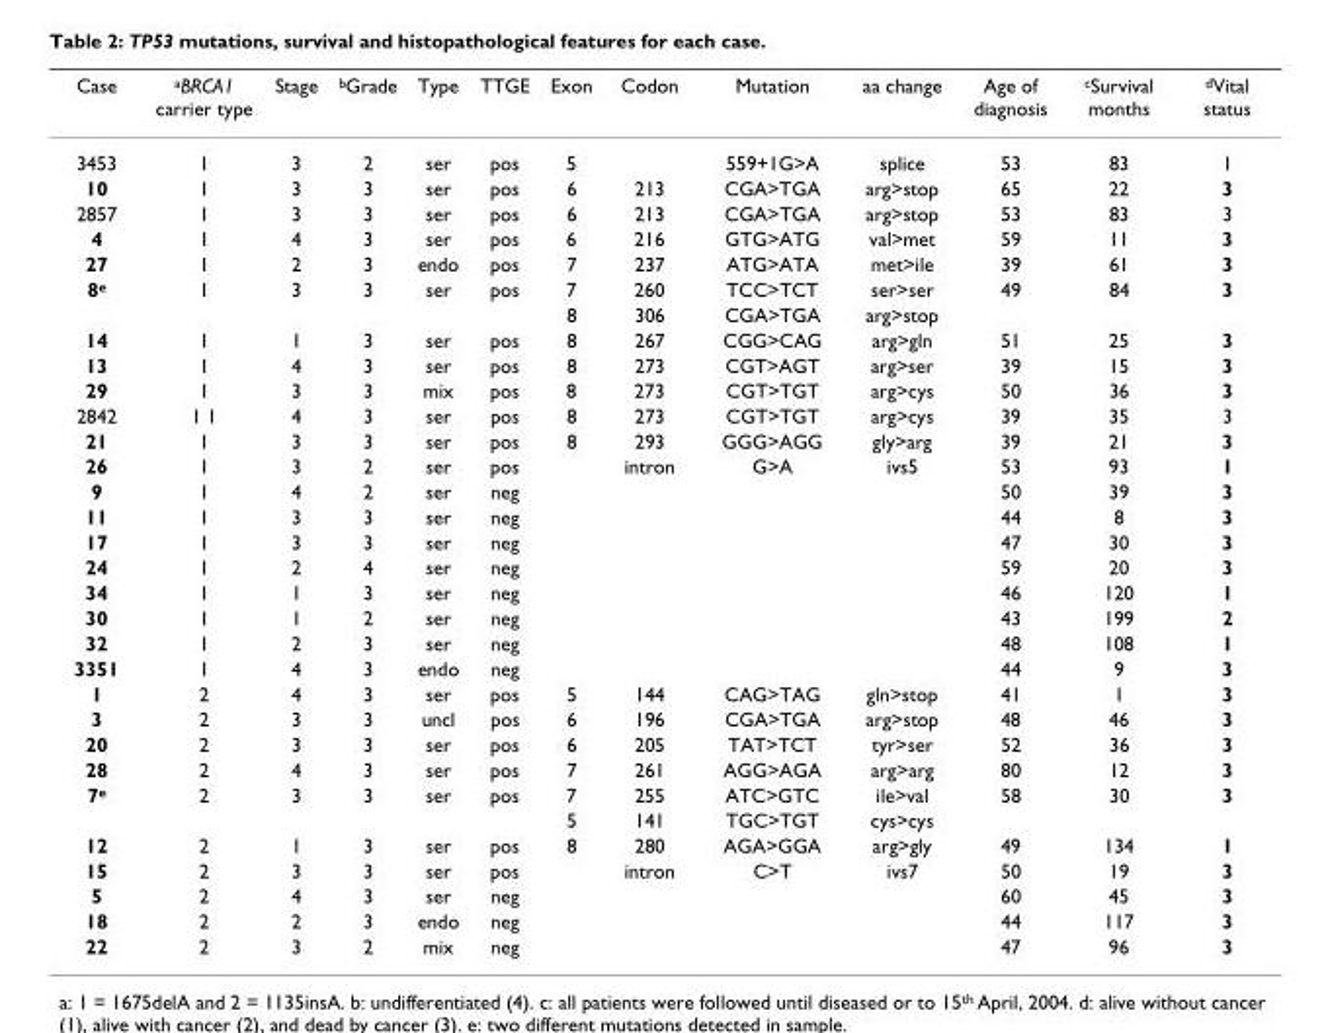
<table><thead><tr><td>Case</td><td>aBRCA1 carrier type</td><td>Stage</td><td>bGrade</td><td>Type</td><td>TTGE</td><td>Exon</td><td>Codon</td><td>Mutation</td><td>aa change</td><td>Age of diagnosis</td><td>cSurvival months</td><td>dVital status</td></tr></thead><tbody><tr><td>3453</td><td>1</td><td>3</td><td>2</td><td>ser</td><td>pos</td><td>5</td><td></td><td>559+1G&gt;A</td><td>splice</td><td>53</td><td>83</td><td>1</td></tr><tr><td>10</td><td>1</td><td>3</td><td>3</td><td>ser</td><td>pos</td><td>6</td><td>213</td><td>CGA&gt;TGA</td><td>arg&gt;stop</td><td>65</td><td>22</td><td>3</td></tr><tr><td>2857</td><td>1</td><td>3</td><td>3</td><td>ser</td><td>pos</td><td>6</td><td>213</td><td>CGA&gt;TGA</td><td>arg&gt;stop</td><td>53</td><td>83</td><td>3</td></tr><tr><td>4</td><td>1</td><td>4</td><td>3</td><td>ser</td><td>pos</td><td>6</td><td>216</td><td>GTG&gt;ATG</td><td>val&gt;met</td><td>59</td><td>11</td><td>3</td></tr><tr><td>27</td><td>1</td><td>2</td><td>3</td><td>endo</td><td>pos</td><td>7</td><td>237</td><td>ATG&gt;ATA</td><td>met&gt;ile</td><td>39</td><td>61</td><td>3</td></tr><tr><td rowspan="2">8e</td><td>1</td><td>3</td><td>3</td><td>ser</td><td>pos</td><td>7</td><td>260</td><td>TCC&gt;TCT</td><td>ser&gt;ser</td><td>49</td><td>84</td><td>3</td></tr><tr><td></td><td></td><td></td><td></td><td></td><td>8</td><td>306</td><td>CGA&gt;TGA</td><td>arg&gt;stop</td><td></td><td></td><td></td></tr><tr><td>14</td><td>1</td><td>1</td><td>3</td><td>ser</td><td>pos</td><td>8</td><td>267</td><td>CGG&gt;CAG</td><td>arg&gt;gln</td><td>51</td><td>25</td><td>3</td></tr><tr><td>13</td><td>1</td><td>4</td><td>3</td><td>ser</td><td>pos</td><td>8</td><td>273</td><td>CGT&gt;AGT</td><td>arg&gt;ser</td><td>39</td><td>15</td><td>3</td></tr><tr><td>29</td><td>1</td><td>3</td><td>3</td><td>mix</td><td>pos</td><td>8</td><td>273</td><td>CGT&gt;TGT</td><td>arg&gt;cys</td><td>50</td><td>36</td><td>3</td></tr><tr><td>2842</td><td>1 1</td><td>4</td><td>3</td><td>ser</td><td>pos</td><td>8</td><td>273</td><td>CGT&gt;TGT</td><td>arg&gt;cys</td><td>39</td><td>35</td><td>3</td></tr><tr><td>21</td><td>1</td><td>3</td><td>3</td><td>ser</td><td>pos</td><td>8</td><td>293</td><td>GGG&gt;AGG</td><td>gly&gt;arg</td><td>39</td><td>21</td><td>3</td></tr><tr><td>26</td><td>1</td><td>3</td><td>2</td><td>ser</td><td>pos</td><td></td><td>intron</td><td>G&gt;A</td><td>ivs5</td><td>53</td><td>93</td><td>1</td></tr><tr><td>9</td><td>1</td><td>4</td><td>2</td><td>ser</td><td>neg</td><td></td><td></td><td></td><td></td><td>50</td><td>39</td><td>3</td></tr><tr><td>11</td><td>1</td><td>3</td><td>3</td><td>ser</td><td>neg</td><td></td><td></td><td></td><td></td><td>44</td><td>8</td><td>3</td></tr><tr><td>17</td><td>1</td><td>3</td><td>3</td><td>ser</td><td>neg</td><td></td><td></td><td></td><td></td><td>47</td><td>30</td><td>3</td></tr><tr><td>24</td><td>1</td><td>2</td><td>4</td><td>ser</td><td>neg</td><td></td><td></td><td></td><td></td><td>59</td><td>20</td><td>3</td></tr><tr><td>34</td><td>1</td><td>1</td><td>3</td><td>ser</td><td>neg</td><td></td><td></td><td></td><td></td><td>46</td><td>120</td><td>1</td></tr><tr><td>30</td><td>1</td><td>1</td><td>2</td><td>ser</td><td>neg</td><td></td><td></td><td></td><td></td><td>43</td><td>199</td><td>2</td></tr><tr><td>32</td><td>1</td><td>2</td><td>3</td><td>ser</td><td>neg</td><td></td><td></td><td></td><td></td><td>48</td><td>108</td><td>1</td></tr><tr><td>3351</td><td>1</td><td>4</td><td>3</td><td>endo</td><td>neg</td><td></td><td></td><td></td><td></td><td>44</td><td>9</td><td>3</td></tr><tr><td>1</td><td>2</td><td>4</td><td>3</td><td>ser</td><td>pos</td><td>5</td><td>144</td><td>CAG&gt;TAG</td><td>gln&gt;stop</td><td>41</td><td>1</td><td>3</td></tr><tr><td>3</td><td>2</td><td>3</td><td>3</td><td>uncl</td><td>pos</td><td>6</td><td>196</td><td>CGA&gt;TGA</td><td>arg&gt;stop</td><td>48</td><td>46</td><td>3</td></tr><tr><td>20</td><td>2</td><td>3</td><td>3</td><td>ser</td><td>pos</td><td>6</td><td>205</td><td>TAT&gt;TCT</td><td>tyr&gt;ser</td><td>52</td><td>36</td><td>3</td></tr><tr><td>28</td><td>2</td><td>4</td><td>3</td><td>ser</td><td>pos</td><td>7</td><td>261</td><td>AGG&gt;AGA</td><td>arg&gt;arg</td><td>80</td><td>12</td><td>3</td></tr><tr><td rowspan="2">7e</td><td>2</td><td>3</td><td>3</td><td>ser</td><td>pos</td><td>7</td><td>255</td><td>ATC&gt;GTC</td><td>ile&gt;val</td><td>58</td><td>30</td><td>3</td></tr><tr><td></td><td></td><td></td><td></td><td></td><td>5</td><td>141</td><td>TGC&gt;TGT</td><td>cys&gt;cys</td><td></td><td></td><td></td></tr><tr><td>12</td><td>2</td><td>1</td><td>3</td><td>ser</td><td>pos</td><td>8</td><td>280</td><td>AGA&gt;GGA</td><td>arg&gt;gly</td><td>49</td><td>134</td><td>1</td></tr><tr><td>15</td><td>2</td><td>3</td><td>3</td><td>ser</td><td>pos</td><td></td><td>intron</td><td>C&gt;T</td><td>ivs7</td><td>50</td><td>19</td><td>3</td></tr><tr><td>5</td><td>2</td><td>4</td><td>3</td><td>ser</td><td>neg</td><td></td><td></td><td></td><td></td><td>60</td><td>45</td><td>3</td></tr><tr><td>18</td><td>2</td><td>2</td><td>3</td><td>endo</td><td>neg</td><td></td><td></td><td></td><td></td><td>44</td><td>117</td><td>3</td></tr><tr><td>22</td><td>2</td><td>3</td><td>2</td><td>mix</td><td>neg</td><td></td><td></td><td></td><td></td><td>47</td><td>96</td><td>3</td></tr></tbody></table>